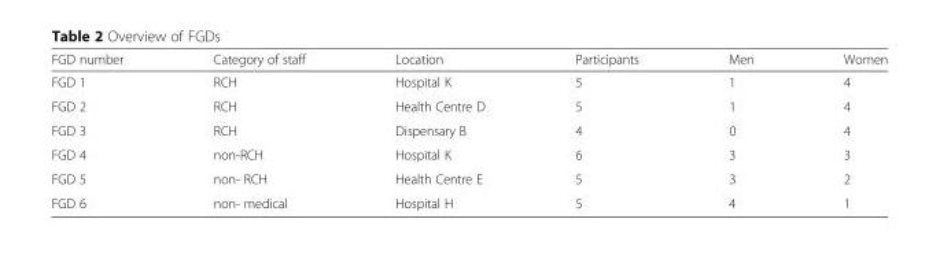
<table><thead><tr><td>FGD number</td><td>Category of staff</td><td>Location</td><td>Participants</td><td>Men</td><td>Women</td></tr></thead><tbody><tr><td>FGD 1</td><td>RCH</td><td>Hospital K</td><td>5</td><td>1</td><td>4</td></tr><tr><td>FGD 2</td><td>RCH</td><td>Health Centre D</td><td>5</td><td>1</td><td>4</td></tr><tr><td>FGD 3</td><td>RCH</td><td>Dispensary B</td><td>4</td><td>0</td><td>4</td></tr><tr><td>FGD 4</td><td>non-RCH</td><td>Hospital K</td><td>6</td><td>3</td><td>3</td></tr><tr><td>FGD 5</td><td>non- RCH</td><td>Health Centre E</td><td>5</td><td>3</td><td>2</td></tr><tr><td>FGD 6</td><td>non- medical</td><td>Hospital H</td><td>5</td><td>4</td><td>1</td></tr></tbody></table>